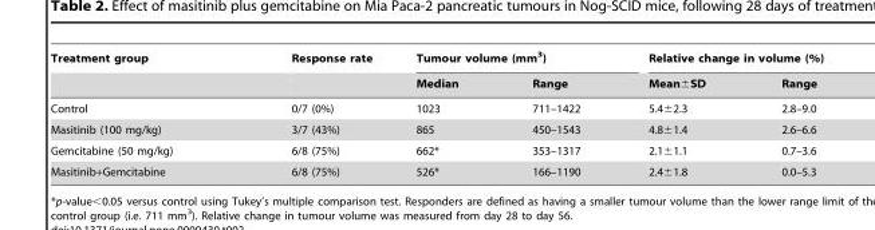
<table><thead><tr><td rowspan="2">Treatment group</td><td rowspan="2">Response rate</td><td colspan="2">Tumour volume (mm<sup>3</sup>)</td><td colspan="2">Relative change in volume (%)</td></tr><tr><td>Median</td><td>Range</td><td>Mean±SD</td><td>Range</td></tr></thead><tbody><tr><td>Control</td><td>0/7 (0%)</td><td>1023</td><td>711–1422</td><td>5.4±2.3</td><td>2.8–9.0</td></tr><tr><td>Masitinib (100 mg/kg)</td><td>3/7 (43%)</td><td>865</td><td>450–1543</td><td>4.8±1.4</td><td>2.6–6.6</td></tr><tr><td>Gemcitabine (50 mg/kg)</td><td>6/8 (75%)</td><td>662*</td><td>353–1317</td><td>2.1±1.1</td><td>0.7–3.6</td></tr><tr><td>Masitinib+Gemcitabine</td><td>6/8 (75%)</td><td>526*</td><td>166–1190</td><td>2.4±1.8</td><td>0.0–5.3</td></tr></tbody></table>